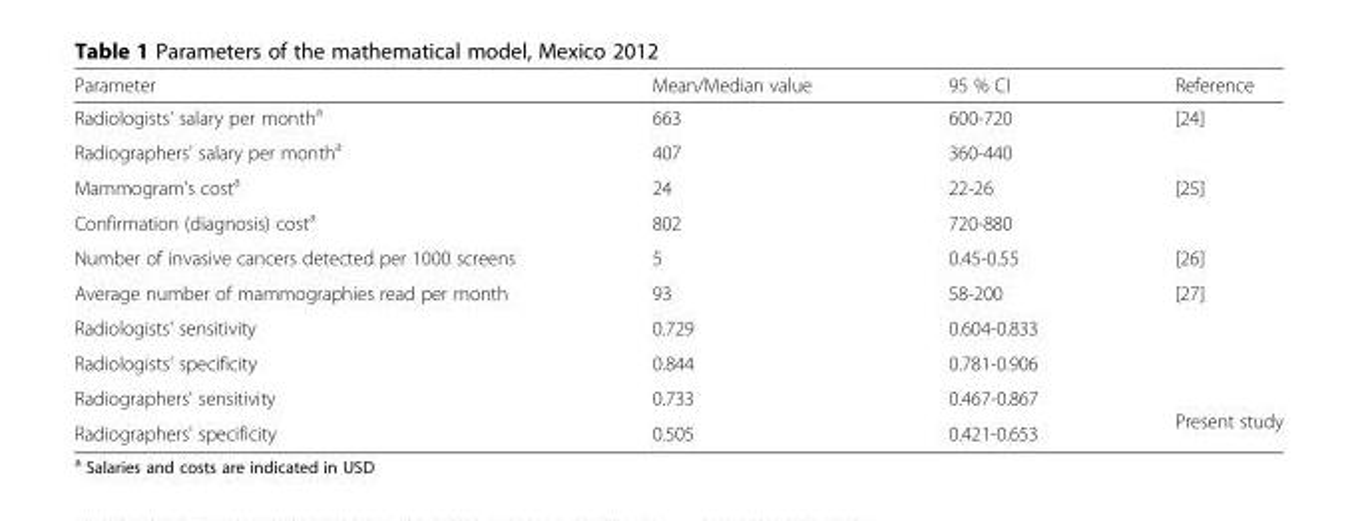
<table><thead><tr><td>Parameter</td><td>Mean/Median value</td><td>95 % CI</td><td>Reference</td></tr></thead><tbody><tr><td>Radiologists&#x27; salary per month<sup>a</sup></td><td>663</td><td>600-720</td><td rowspan="2">[24]</td></tr><tr><td>Radiographers&#x27; salary per month<sup>a</sup></td><td>407</td><td>360-440</td></tr><tr><td>Mammogram&#x27;s cost<sup>a</sup></td><td>24</td><td>22-26</td><td rowspan="2">[25]</td></tr><tr><td>Confirmation (diagnosis) cost<sup>a</sup></td><td>802</td><td>720-880</td></tr><tr><td>Number of invasive cancers detected per 1000 screens</td><td>5</td><td>0.45-0.55</td><td>[26]</td></tr><tr><td>Average number of mammographies read per month</td><td>93</td><td>58-200</td><td rowspan="3">[27]</td></tr><tr><td>Radiologists&#x27; sensitivity</td><td>0.729</td><td>0.604-0.833</td></tr><tr><td>Radiologists&#x27; specificity</td><td>0.844</td><td>0.781-0.906</td></tr><tr><td>Radiographers&#x27; sensitivity</td><td>0.733</td><td>0.467-0.867</td><td rowspan="2">Present study</td></tr><tr><td>Radiographers&#x27; specificity</td><td>0.505</td><td>0.421-0.653</td></tr></tbody></table>